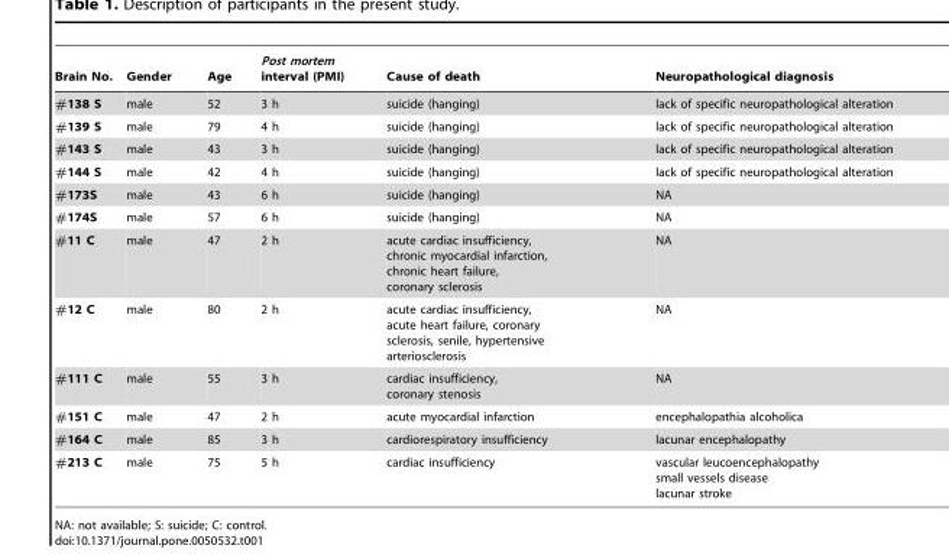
<table><thead><tr><td>Brain No.</td><td>Gender</td><td>Age</td><td>Post mortem interval (PMI)</td><td>Cause of death</td><td>Neuropathological diagnosis</td></tr></thead><tbody><tr><td>#138 S</td><td>male</td><td>52</td><td>3 h</td><td>suicide (hanging)</td><td>lack of specific neuropathological alteration</td></tr><tr><td>#139 S</td><td>male</td><td>79</td><td>4 h</td><td>suicide (hanging)</td><td>lack of specific neuropathological alteration</td></tr><tr><td>#143 S</td><td>male</td><td>43</td><td>3 h</td><td>suicide (hanging)</td><td>lack of specific neuropathological alteration</td></tr><tr><td>#144 S</td><td>male</td><td>42</td><td>4 h</td><td>suicide (hanging)</td><td>lack of specific neuropathological alteration</td></tr><tr><td>#173S</td><td>male</td><td>43</td><td>6 h</td><td>suicide (hanging)</td><td>NA</td></tr><tr><td>#174S</td><td>male</td><td>57</td><td>6 h</td><td>suicide (hanging)</td><td>NA</td></tr><tr><td>#11 C</td><td>male</td><td>47</td><td>2 h</td><td>acute cardiac insufficiency, chronic myocardial infarction, chronic heart failure, coronary sclerosis</td><td>NA</td></tr><tr><td>#12 C</td><td>male</td><td>80</td><td>2 h</td><td>acute cardiac insufficiency, acute heart failure, coronary sclerosis, senile, hypertensive arteriosclerosis</td><td>NA</td></tr><tr><td>#111 C</td><td>male</td><td>55</td><td>3 h</td><td>cardiac insufficiency, coronary stenosis</td><td>NA</td></tr><tr><td>#151 C</td><td>male</td><td>47</td><td>2 h</td><td>acute myocardial infarction</td><td>encephalopathia alcoholica</td></tr><tr><td>#164 C</td><td>male</td><td>85</td><td>3 h</td><td>cardiorespiratory insufficiency</td><td>lacunar encephalopathy</td></tr><tr><td>#213 C</td><td>male</td><td>75</td><td>5 h</td><td>cardiac insufficiency</td><td>vascular leucoencephalopathy small vessels disease lacunar stroke</td></tr></tbody></table>